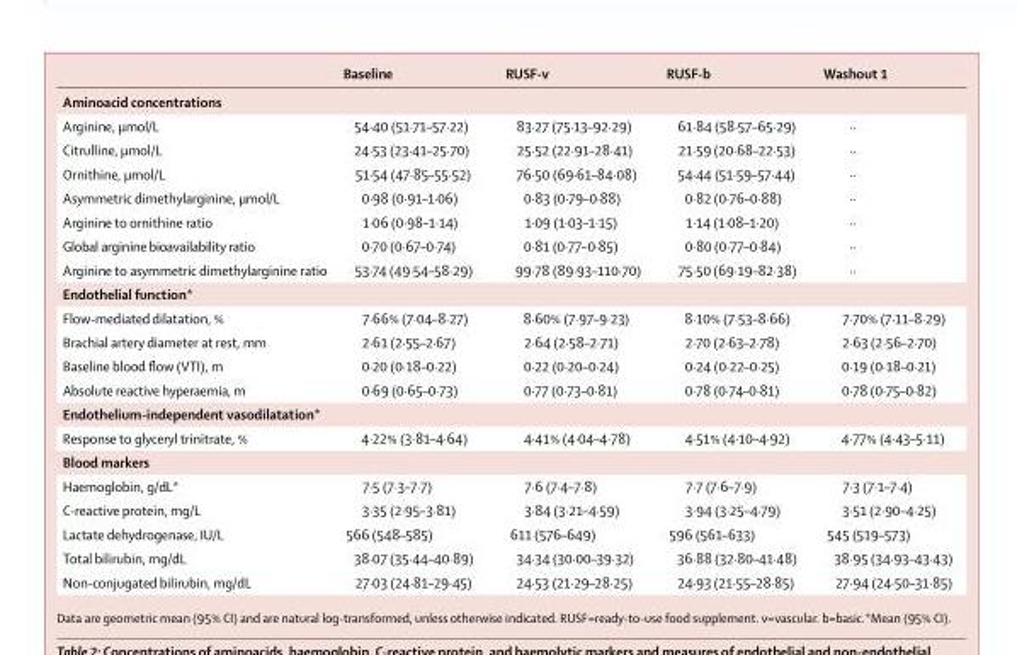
<table><thead><tr><td></td><td>Baseline</td><td>RUSF-v</td><td>RUSF-b</td><td>Washout 1</td></tr></thead><tbody><tr><td colspan="5">Aminoacid concentrations</td></tr><tr><td>Arginine, µmol/L</td><td>54·40 (51·71–57·22)</td><td>83·27 (75·13–92·29)</td><td>61·84 (58·57–65·29)</td><td>··</td></tr><tr><td>Citrulline, µmol/L</td><td>24·53 (23·41–25·70)</td><td>25·52 (22·91–28·41)</td><td>21·59 (20·68–22·53)</td><td>··</td></tr><tr><td>Ornithine, µmol/L</td><td>51·54 (47·85–55·52)</td><td>76·50 (69·61–84·08)</td><td>54·44 (51·59–57·44)</td><td>··</td></tr><tr><td>Asymmetric dimethylarginine, µmol/L</td><td>0·98 (0·91–1·06)</td><td>0·83 (0·79–0·88)</td><td>0·82 (0·76–0·88)</td><td>··</td></tr><tr><td>Arginine to ornithine ratio</td><td>1·06 (0·98–1·14)</td><td>1·09 (1·03–1·15)</td><td>1·14 (1·08–1·20)</td><td>··</td></tr><tr><td>Global arginine bioavailability ratio</td><td>0·70 (0·67–0·74)</td><td>0·81 (0·77–0·85)</td><td>0·80 (0·77–0·84)</td><td>··</td></tr><tr><td>Arginine to asymmetric dimethylarginine ratio</td><td>53·74 (49·54–58·29)</td><td>99·78 (89·93–110·70)</td><td>75·50 (69·19–82·38)</td><td>··</td></tr><tr><td colspan="5">Endothelial function*</td></tr><tr><td>Flow-mediated dilatation, %</td><td>7·66% (7·04–8·27)</td><td>8·60% (7·97–9·23)</td><td>8·10% (7·53–8·66)</td><td>7·70% (7·11–8·29)</td></tr><tr><td>Brachial artery diameter at rest, mm</td><td>2·61 (2·55–2·67)</td><td>2·64 (2·58–2·71)</td><td>2·70 (2·63–2·78)</td><td>2·63 (2·56–2·70)</td></tr><tr><td>Baseline blood flow (VTI), m</td><td>0·20 (0·18–0·22)</td><td>0·22 (0·20–0·24)</td><td>0·24 (0·22–0·25)</td><td>0·19 (0·18–0·21)</td></tr><tr><td>Absolute reactive hyperaemia, m</td><td>0·69 (0·65–0·73)</td><td>0·77 (0·73–0·81)</td><td>0·78 (0·74–0·81)</td><td>0·78 (0·75–0·82)</td></tr><tr><td colspan="5">Endothelium-independent vasodilatation*</td></tr><tr><td>Response to glyceryl trinitrate, %</td><td>4·22% (3·81–4·64)</td><td>4·41% (4·04–4·78)</td><td>4·51% (4·10–4·92)</td><td>4·77% (4·43–5·11)</td></tr><tr><td colspan="5">Blood markers</td></tr><tr><td>Haemoglobin, g/dL*</td><td>7·5 (7·3–7·7)</td><td>7·6 (7·4–7·8)</td><td>7·7 (7·6–7·9)</td><td>7·3 (7·1–7·4)</td></tr><tr><td>C-reactive protein, mg/L</td><td>3·35 (2·95–3·81)</td><td>3·84 (3·21–4·59)</td><td>3·94 (3·25–4·79)</td><td>3·51 (2·90–4·25)</td></tr><tr><td>Lactate dehydrogenase, IU/L</td><td>566 (548–585)</td><td>611 (576–649)</td><td>596 (561–633)</td><td>545 (519–573)</td></tr><tr><td>Total bilirubin, mg/dL</td><td>38·07 (35·44–40·89)</td><td>34·34 (30·00–39·32)</td><td>36·88 (32·80–41·48)</td><td>38·95 (34·93–43·43)</td></tr><tr><td>Non-conjugated bilirubin, mg/dL</td><td>27·03 (24·81–29·45)</td><td>24·53 (21·29–28·25)</td><td>24·93 (21·55–28·85)</td><td>27·94 (24·50–31·85)</td></tr></tbody></table>